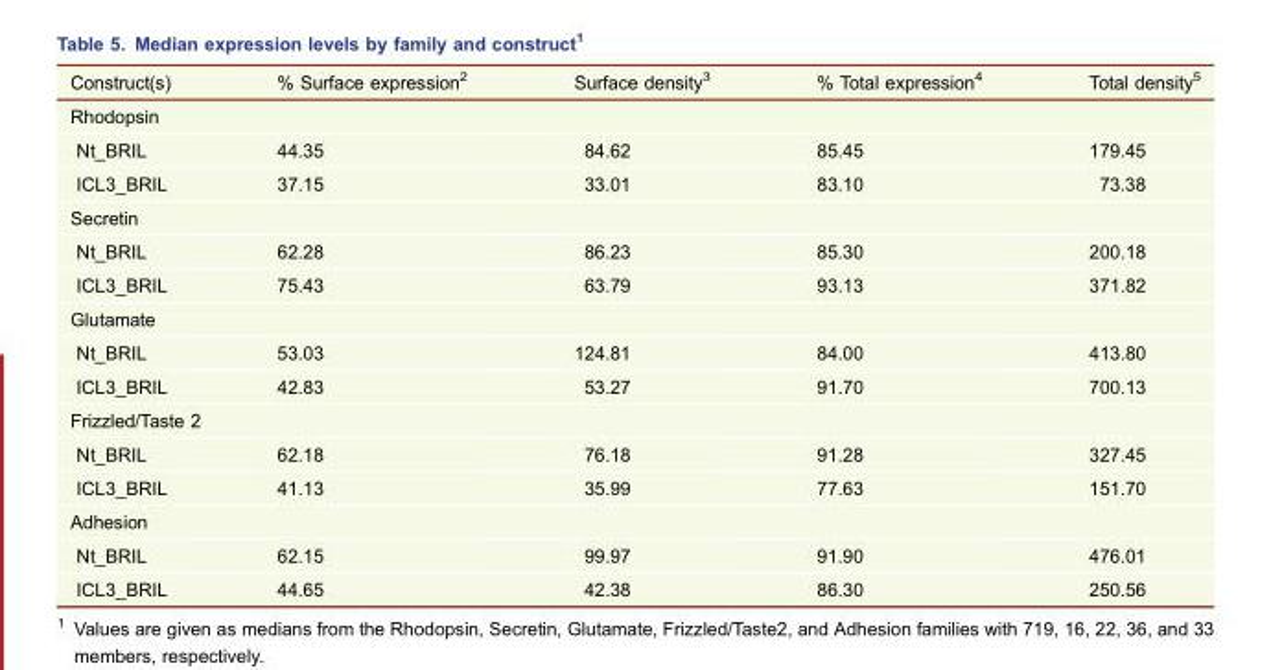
<table><thead><tr><td>Construct(s)</td><td>% Surface expression<sup>2</sup></td><td>Surface density<sup>3</sup></td><td>% Total expression<sup>4</sup></td><td>Total density<sup>5</sup></td></tr></thead><tbody><tr><td colspan="5">Rhodopsin</td></tr><tr><td>Nt_BRIL</td><td>44.35</td><td>84.62</td><td>85.45</td><td>179.45</td></tr><tr><td>ICL3_BRIL</td><td>37.15</td><td>33.01</td><td>83.10</td><td>73.38</td></tr><tr><td colspan="5">Secretin</td></tr><tr><td>Nt_BRIL</td><td>62.28</td><td>86.23</td><td>85.30</td><td>200.18</td></tr><tr><td>ICL3_BRIL</td><td>75.43</td><td>63.79</td><td>93.13</td><td>371.82</td></tr><tr><td colspan="5">Glutamate</td></tr><tr><td>Nt_BRIL</td><td>53.03</td><td>124.81</td><td>84.00</td><td>413.80</td></tr><tr><td>ICL3_BRIL</td><td>42.83</td><td>53.27</td><td>91.70</td><td>700.13</td></tr><tr><td colspan="5">Frizzled/Taste 2</td></tr><tr><td>Nt_BRIL</td><td>62.18</td><td>76.18</td><td>91.28</td><td>327.45</td></tr><tr><td>ICL3_BRIL</td><td>41.13</td><td>35.99</td><td>77.63</td><td>151.70</td></tr><tr><td colspan="5">Adhesion</td></tr><tr><td>Nt_BRIL</td><td>62.15</td><td>99.97</td><td>91.90</td><td>476.01</td></tr><tr><td>ICL3_BRIL</td><td>44.65</td><td>42.38</td><td>86.30</td><td>250.56</td></tr></tbody></table>